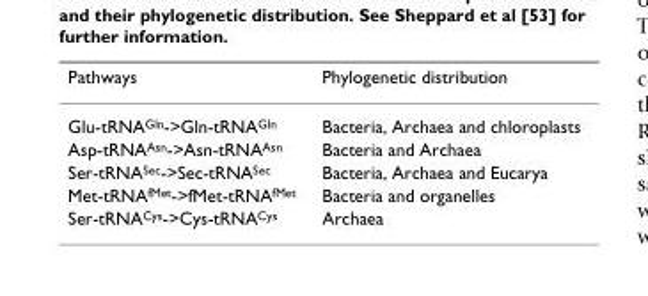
<table><thead><tr><td>Pathways</td><td>Phylogenetic distribution</td></tr></thead><tbody><tr><td>Glu-tRNA<sup>Gln</sup>-&gt;Gln-tRNA<sup>Gln</sup></td><td>Bacteria, Archaea and chloroplasts</td></tr><tr><td>Asp-tRNA<sup>Asn</sup>-&gt;Asn-tRNA<sup>Asn</sup></td><td>Bacteria and Archaea</td></tr><tr><td>Ser-tRNA<sup>Sec</sup>-&gt;Sec-tRNA<sup>Sec</sup></td><td>Bacteria, Archaea and Eucarya</td></tr><tr><td>Met-tRNA<sup>fMet</sup>-&gt;fMet-tRNA<sup>fMet</sup></td><td>Bacteria and organelles</td></tr><tr><td>Ser-tRNA<sup>Cys</sup>-&gt;Cys-tRNA<sup>Cys</sup></td><td>Archaea</td></tr></tbody></table>